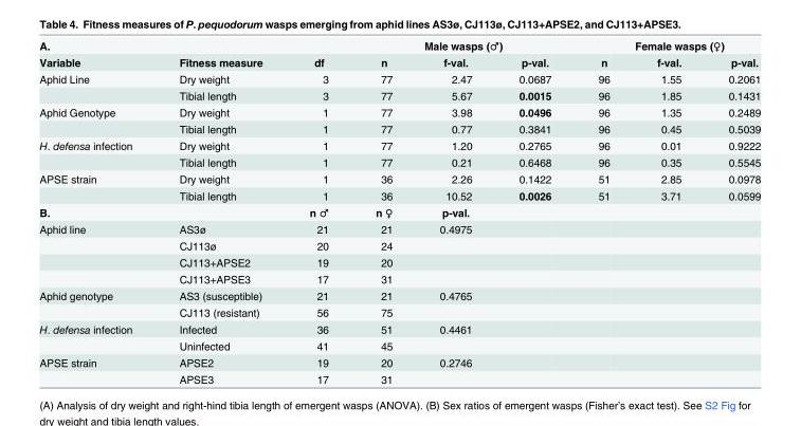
<table><tbody><tr><td>A.</td><td></td><td></td><td colspan="3">Male wasps (♂)</td><td colspan="3">Female wasps (♀)</td></tr><tr><td>Variable</td><td>Fitness measure</td><td>df</td><td>n</td><td>f-val.</td><td>p-val.</td><td>n</td><td>f-val.</td><td>p-val.</td></tr><tr><td rowspan="2">Aphid Line</td><td>Dry weight</td><td>3</td><td>77</td><td>2.47</td><td>0.0687</td><td>96</td><td>1.55</td><td>0.2061</td></tr><tr><td>Tibial length</td><td>3</td><td>77</td><td>5.67</td><td>0.0015</td><td>96</td><td>1.85</td><td>0.1431</td></tr><tr><td rowspan="2">Aphid Genotype</td><td>Dry weight</td><td>1</td><td>77</td><td>3.98</td><td>0.0496</td><td>96</td><td>1.35</td><td>0.2489</td></tr><tr><td>Tibial length</td><td>1</td><td>77</td><td>0.77</td><td>0.3841</td><td>96</td><td>0.45</td><td>0.5039</td></tr><tr><td rowspan="2">H. defensa infection</td><td>Dry weight</td><td>1</td><td>77</td><td>1.20</td><td>0.2765</td><td>96</td><td>0.01</td><td>0.9222</td></tr><tr><td>Tibial length</td><td>1</td><td>77</td><td>0.21</td><td>0.6468</td><td>96</td><td>0.35</td><td>0.5545</td></tr><tr><td rowspan="2">APSE strain</td><td>Dry weight</td><td>1</td><td>36</td><td>2.26</td><td>0.1422</td><td>51</td><td>2.85</td><td>0.0978</td></tr><tr><td>Tibial length</td><td>1</td><td>36</td><td>10.52</td><td>0.0026</td><td>51</td><td>3.71</td><td>0.0599</td></tr><tr><td>B.</td><td></td><td>n ♂</td><td>n ♀</td><td>p-val.</td><td></td><td></td><td></td><td></td></tr><tr><td rowspan="4">Aphid line</td><td>AS3ø</td><td>21</td><td>21</td><td>0.4975</td><td></td><td></td><td></td><td></td></tr><tr><td>CJ113ø</td><td>20</td><td>24</td><td></td><td></td><td></td><td></td><td></td></tr><tr><td>CJ113+APSE2</td><td>19</td><td>20</td><td></td><td></td><td></td><td></td><td></td></tr><tr><td>CJ113+APSE3</td><td>17</td><td>31</td><td></td><td></td><td></td><td></td><td></td></tr><tr><td rowspan="2">Aphid genotype</td><td>AS3 (susceptible)</td><td>21</td><td>21</td><td>0.4765</td><td></td><td></td><td></td><td></td></tr><tr><td>CJ113 (resistant)</td><td>56</td><td>75</td><td></td><td></td><td></td><td></td><td></td></tr><tr><td rowspan="2">H. defensa infection</td><td>Infected</td><td>36</td><td>51</td><td>0.4461</td><td></td><td></td><td></td><td></td></tr><tr><td>Uninfected</td><td>41</td><td>45</td><td></td><td></td><td></td><td></td><td></td></tr><tr><td rowspan="2">APSE strain</td><td>APSE2</td><td>19</td><td>20</td><td>0.2746</td><td></td><td></td><td></td><td></td></tr><tr><td>APSE3</td><td>17</td><td>31</td><td></td><td></td><td></td><td></td><td></td></tr></tbody></table>